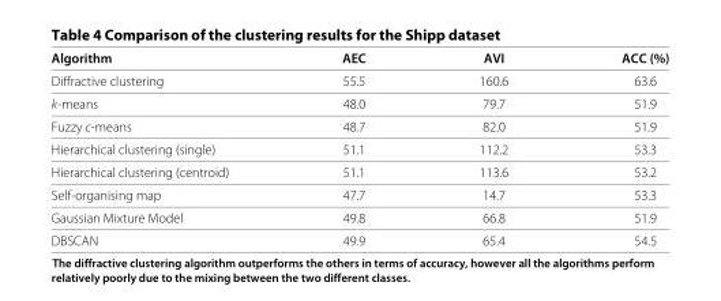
<table><thead><tr><td>Algorithm</td><td>AEC</td><td>AVI</td><td>ACC (%)</td></tr></thead><tbody><tr><td>Diffractive clustering</td><td>55.5</td><td>160.6</td><td>63.6</td></tr><tr><td>k-means</td><td>48.0</td><td>79.7</td><td>51.9</td></tr><tr><td>Fuzzy c-means</td><td>48.7</td><td>82.0</td><td>51.9</td></tr><tr><td>Hierarchical clustering (single)</td><td>51.1</td><td>112.2</td><td>53.3</td></tr><tr><td>Hierarchical clustering (centroid)</td><td>51.1</td><td>113.6</td><td>53.2</td></tr><tr><td>Self-organising map</td><td>47.7</td><td>14.7</td><td>53.3</td></tr><tr><td>Gaussian Mixture Model</td><td>49.8</td><td>66.8</td><td>51.9</td></tr><tr><td>DBSCAN</td><td>49.9</td><td>65.4</td><td>54.5</td></tr></tbody></table>